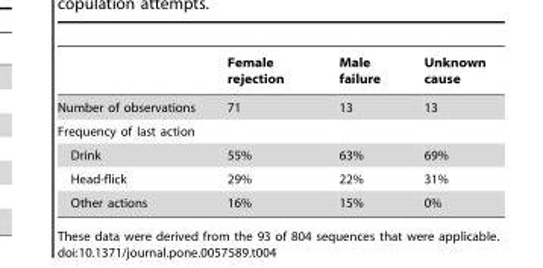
<table><thead><tr><td></td><td>Female rejection</td><td>Male failure</td><td>Unknown cause</td></tr></thead><tbody><tr><td>Number of observations</td><td>71</td><td>13</td><td>13</td></tr><tr><td colspan="4">Frequency of last action</td></tr><tr><td>Drink</td><td>55%</td><td>63%</td><td>69%</td></tr><tr><td>Head-flick</td><td>29%</td><td>22%</td><td>31%</td></tr><tr><td>Other actions</td><td>16%</td><td>15%</td><td>0%</td></tr></tbody></table>